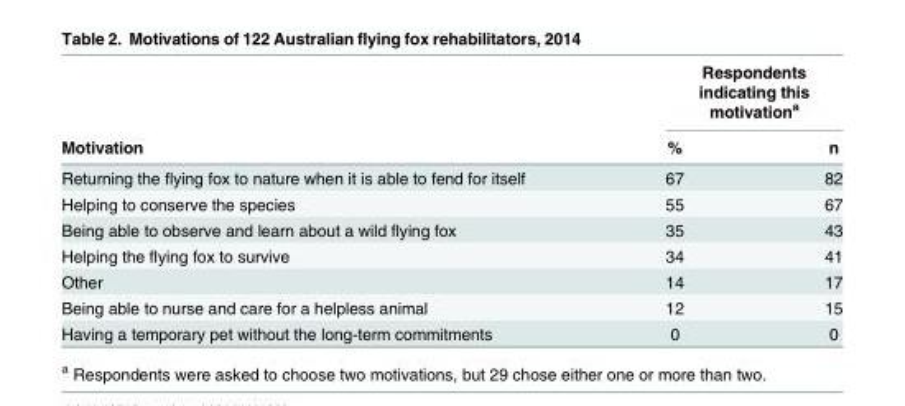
<table><thead><tr><td rowspan="2">Motivation</td><td colspan="2">Respondents indicating this motivation<sup>a</sup></td></tr><tr><td>%</td><td>n</td></tr></thead><tbody><tr><td>Returning the flying fox to nature when it is able to fend for itself</td><td>67</td><td>82</td></tr><tr><td>Helping to conserve the species</td><td>55</td><td>67</td></tr><tr><td>Being able to observe and learn about a wild flying fox</td><td>35</td><td>43</td></tr><tr><td>Helping the flying fox to survive</td><td>34</td><td>41</td></tr><tr><td>Other</td><td>14</td><td>17</td></tr><tr><td>Being able to nurse and care for a helpless animal</td><td>12</td><td>15</td></tr><tr><td>Having a temporary pet without the long-term commitments</td><td>0</td><td>0</td></tr></tbody></table>